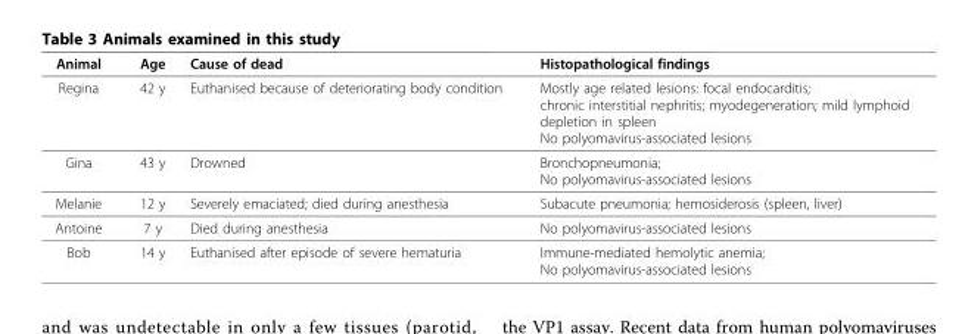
<table><thead><tr><td>Animal</td><td>Age</td><td>Cause of dead</td><td>Histopathological findings</td></tr></thead><tbody><tr><td>Regina</td><td>42 y</td><td>Euthanised because of deteriorating body condition</td><td>Mostly age related lesions: focal endocarditis; chronic interstitial nephritis; myodegeneration; mild lymphoid depletion in spleen No polyomavirus-associated lesions</td></tr><tr><td>Gina</td><td>43 y</td><td>Drowned</td><td>Bronchopneumonia; No polyomavirus-associated lesions</td></tr><tr><td>Melanie</td><td>12 y</td><td>Severely emaciated; died during anesthesia</td><td>Subacute pneumonia; hemosiderosis (spleen, liver)</td></tr><tr><td>Antoine</td><td>7 y</td><td>Died during anesthesia</td><td>No polyomavirus-associated lesions</td></tr><tr><td>Bob</td><td>14 y</td><td>Euthanised after episode of severe hematuria</td><td>Immune-mediated hemolytic anemia; No polyomavirus-associated lesions</td></tr></tbody></table>